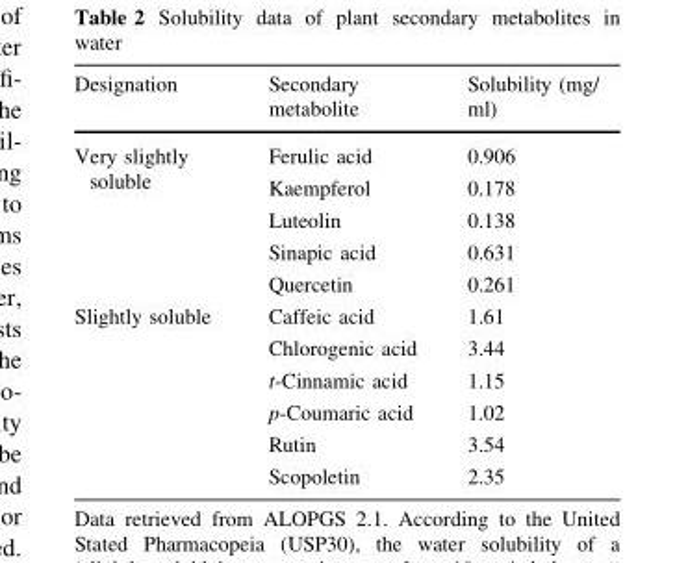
<table><thead><tr><td>Designation</td><td>Secondary metabolite</td><td>Solubility (mg/ ml)</td></tr></thead><tbody><tr><td rowspan="5">Very slightly soluble</td><td>Ferulic acid</td><td>0.906</td></tr><tr><td>Kaempferol</td><td>0.178</td></tr><tr><td>Luteolin</td><td>0.138</td></tr><tr><td>Sinapic acid</td><td>0.631</td></tr><tr><td>Quercetin</td><td>0.261</td></tr><tr><td rowspan="6">Slightly soluble</td><td>Caffeic acid</td><td>1.61</td></tr><tr><td>Chlorogenic acid</td><td>3.44</td></tr><tr><td>t-Cinnamic acid</td><td>1.15</td></tr><tr><td>p-Coumaric acid</td><td>1.02</td></tr><tr><td>Rutin</td><td>3.54</td></tr><tr><td>Scopoletin</td><td>2.35</td></tr></tbody></table>